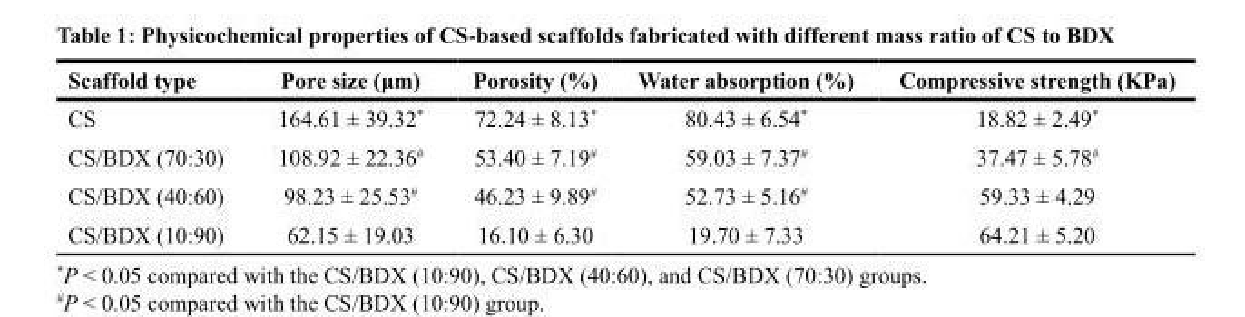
<table><thead><tr><td>Scaffold type</td><td>Pore size (μm)</td><td>Porosity (%)</td><td>Water absorption (%)</td><td>Compressive strength (KPa)</td></tr></thead><tbody><tr><td>CS</td><td>164.61 ± 39.32*</td><td>72.24 ± 8.13*</td><td>80.43 ± 6.54*</td><td>18.82 ± 2.49*</td></tr><tr><td>CS/BDX (70:30)</td><td>108.92 ± 22.36<sup>#</sup></td><td>53.40 ± 7.19<sup>#</sup></td><td>59.03 ± 7.37<sup>#</sup></td><td>37.47 ± 5.78<sup>#</sup></td></tr><tr><td>CS/BDX (40:60)</td><td>98.23 ± 25.53<sup>#</sup></td><td>46.23 ± 9.89<sup>#</sup></td><td>52.73 ± 5.16<sup>#</sup></td><td>59.33 ± 4.29</td></tr><tr><td>CS/BDX (10:90)</td><td>62.15 ± 19.03</td><td>16.10 ± 6.30</td><td>19.70 ± 7.33</td><td>64.21 ± 5.20</td></tr></tbody></table>